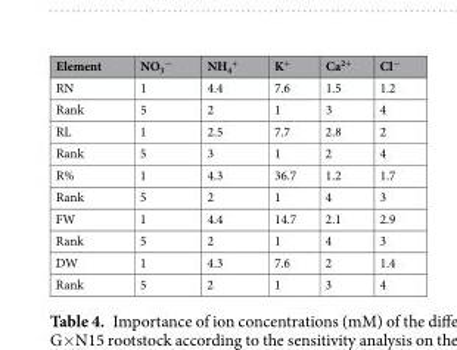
<table><thead><tr><td>Element</td><td>NO<sub>3</sub> <sup>−</sup></td><td>NH<sub>4</sub> <sup>+</sup></td><td>K<sup>+</sup></td><td>Ca<sup>2+</sup></td><td>Cl<sup>−</sup></td></tr></thead><tbody><tr><td>RN</td><td>1</td><td>4.4</td><td>7.6</td><td>1.5</td><td>1.2</td></tr><tr><td>Rank</td><td>5</td><td>2</td><td>1</td><td>3</td><td>4</td></tr><tr><td>RL</td><td>1</td><td>2.5</td><td>7.7</td><td>2.8</td><td>2</td></tr><tr><td>Rank</td><td>5</td><td>3</td><td>1</td><td>2</td><td>4</td></tr><tr><td>R%</td><td>1</td><td>4.3</td><td>36.7</td><td>1.2</td><td>1.7</td></tr><tr><td>Rank</td><td>5</td><td>2</td><td>1</td><td>4</td><td>3</td></tr><tr><td>FW</td><td>1</td><td>4.4</td><td>14.7</td><td>2.1</td><td>2.9</td></tr><tr><td>Rank</td><td>5</td><td>2</td><td>1</td><td>4</td><td>3</td></tr><tr><td>DW</td><td>1</td><td>4.3</td><td>7.6</td><td>2</td><td>1.4</td></tr><tr><td>Rank</td><td>5</td><td>2</td><td>1</td><td>3</td><td>4</td></tr></tbody></table>